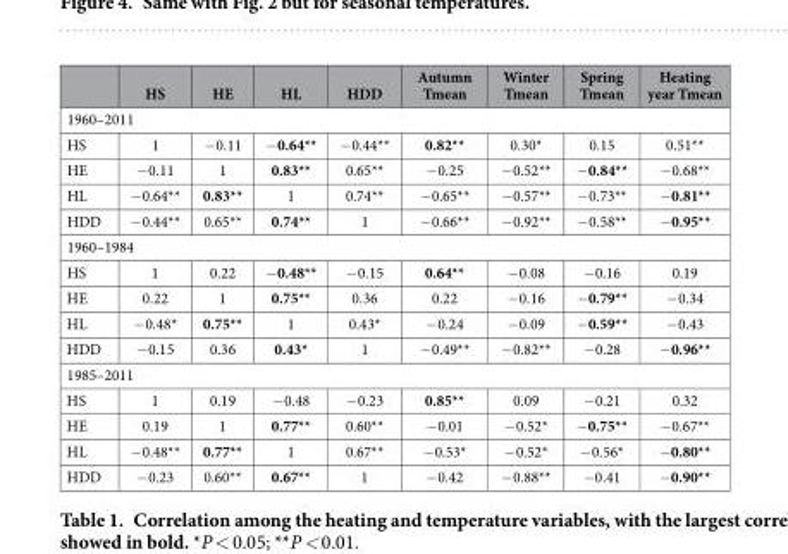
<table><thead><tr><td></td><td>HS</td><td>HE</td><td>HL</td><td>HDD</td><td>Autumn Tmean</td><td>Winter Tmean</td><td>Spring Tmean</td><td>Heating year Tmean</td></tr></thead><tbody><tr><td colspan="9">1960–2011</td></tr><tr><td>HS</td><td>1</td><td>− 0.11</td><td>− 0.64**</td><td>− 0.44**</td><td>0.82**</td><td>0.30*</td><td>0.15</td><td>0.51**</td></tr><tr><td>HE</td><td>− 0.11</td><td>1</td><td>0.83**</td><td>0.65**</td><td>− 0.25</td><td>− 0.52**</td><td>− 0.84**</td><td>− 0.68**</td></tr><tr><td>HL</td><td>− 0.64**</td><td>0.83**</td><td>1</td><td>0.74**</td><td>− 0.65**</td><td>− 0.57**</td><td>− 0.73**</td><td>− 0.81**</td></tr><tr><td>HDD</td><td>− 0.44**</td><td>0.65**</td><td>0.74**</td><td>1</td><td>− 0.66**</td><td>− 0.92**</td><td>− 0.58**</td><td>− 0.95**</td></tr><tr><td colspan="9">1960–1984</td></tr><tr><td>HS</td><td>1</td><td>0.22</td><td>− 0.48**</td><td>− 0.15</td><td>0.64**</td><td>− 0.08</td><td>− 0.16</td><td>0.19</td></tr><tr><td>HE</td><td>0.22</td><td>1</td><td>0.75**</td><td>0.36</td><td>0.22</td><td>− 0.16</td><td>− 0.79**</td><td>− 0.34</td></tr><tr><td>HL</td><td>− 0.48*</td><td>0.75**</td><td>1</td><td>0.43*</td><td>− 0.24</td><td>− 0.09</td><td>− 0.59**</td><td>− 0.43</td></tr><tr><td>HDD</td><td>− 0.15</td><td>0.36</td><td>0.43*</td><td>1</td><td>− 0.49**</td><td>− 0.82**</td><td>− 0.28</td><td>− 0.96**</td></tr><tr><td colspan="9">1985–2011</td></tr><tr><td>HS</td><td>1</td><td>0.19</td><td>− 0.48</td><td>− 0.23</td><td>0.85**</td><td>0.09</td><td>− 0.21</td><td>0.32</td></tr><tr><td>HE</td><td>0.19</td><td>1</td><td>0.77**</td><td>0.60**</td><td>− 0.01</td><td>− 0.52*</td><td>− 0.75**</td><td>− 0.67**</td></tr><tr><td>HL</td><td>− 0.48**</td><td>0.77**</td><td>1</td><td>0.67**</td><td>− 0.53*</td><td>− 0.52*</td><td>− 0.56*</td><td>− 0.80**</td></tr><tr><td>HDD</td><td>− 0.23</td><td>0.60**</td><td>0.67**</td><td>1</td><td>− 0.42</td><td>− 0.88**</td><td>− 0.41</td><td>− 0.90**</td></tr></tbody></table>